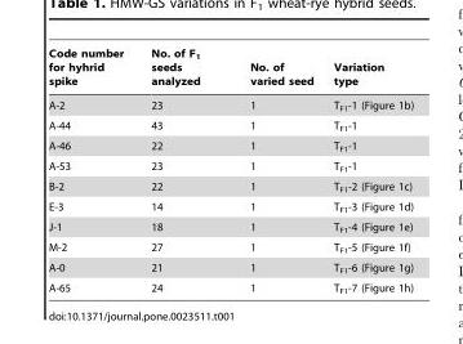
<table><thead><tr><td>Code number for hyhrid spike</td><td>No. of F<sub>1</sub> seeds analyzed</td><td>No. of varied seed</td><td>Variation type</td></tr></thead><tbody><tr><td>A-2</td><td>23</td><td>1</td><td>T<sub>F1</sub>-1 (Figure 1b)</td></tr><tr><td>A-44</td><td>43</td><td>1</td><td>T<sub>F1</sub>-1</td></tr><tr><td>A-46</td><td>22</td><td>1</td><td>T<sub>F1</sub>-1</td></tr><tr><td>A-53</td><td>23</td><td>1</td><td>T<sub>F1</sub>-1</td></tr><tr><td>B-2</td><td>22</td><td>1</td><td>T<sub>F1</sub>-2 (Figure 1c)</td></tr><tr><td>E-3</td><td>14</td><td>1</td><td>T<sub>F1</sub>-3 (Figure 1d)</td></tr><tr><td>J-1</td><td>18</td><td>1</td><td>T<sub>F1</sub>-4 (Figure 1e)</td></tr><tr><td>M-2</td><td>27</td><td>1</td><td>T<sub>F1</sub>-5 (Figure 1f)</td></tr><tr><td>A-0</td><td>21</td><td>1</td><td>T<sub>F1</sub>-6 (Figure 1g)</td></tr><tr><td>A-65</td><td>24</td><td>1</td><td>T<sub>F1</sub>-7 (Figure 1h)</td></tr></tbody></table>